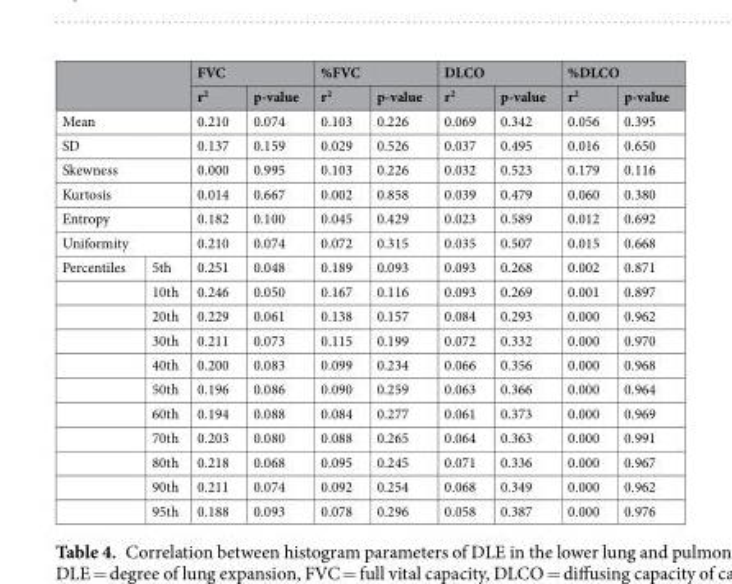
<table><thead><tr><td rowspan="2"></td><td rowspan="2"></td><td colspan="2">FVC</td><td colspan="2">%FVC</td><td colspan="2">DLCO</td><td colspan="2">%DLCO</td></tr><tr><td>r<sup>2</sup></td><td>p-value</td><td>r<sup>2</sup></td><td>p-value</td><td>r<sup>2</sup></td><td>p-value</td><td>r<sup>2</sup></td><td>p-value</td></tr></thead><tbody><tr><td colspan="2">Mean</td><td>0.210</td><td>0.074</td><td>0.103</td><td>0.226</td><td>0.069</td><td>0.342</td><td>0.056</td><td>0.395</td></tr><tr><td colspan="2">SD</td><td>0.137</td><td>0.159</td><td>0.029</td><td>0.526</td><td>0.037</td><td>0.495</td><td>0.016</td><td>0.650</td></tr><tr><td colspan="2">Skewness</td><td>0.000</td><td>0.995</td><td>0.103</td><td>0.226</td><td>0.032</td><td>0.523</td><td>0.179</td><td>0.116</td></tr><tr><td colspan="2">Kurtosis</td><td>0.014</td><td>0.667</td><td>0.002</td><td>0.858</td><td>0.039</td><td>0.479</td><td>0.060</td><td>0.380</td></tr><tr><td colspan="2">Entropy</td><td>0.182</td><td>0.100</td><td>0.045</td><td>0.429</td><td>0.023</td><td>0.589</td><td>0.012</td><td>0.692</td></tr><tr><td colspan="2">Uniformity</td><td>0.210</td><td>0.074</td><td>0.072</td><td>0.315</td><td>0.035</td><td>0.507</td><td>0.015</td><td>0.668</td></tr><tr><td rowspan="11">Percentiles</td><td>5th</td><td>0.251</td><td>0.048</td><td>0.189</td><td>0.093</td><td>0.093</td><td>0.268</td><td>0.002</td><td>0.871</td></tr><tr><td>10th</td><td>0.246</td><td>0.050</td><td>0.167</td><td>0.116</td><td>0.093</td><td>0.269</td><td>0.001</td><td>0.897</td></tr><tr><td>20th</td><td>0.229</td><td>0.061</td><td>0.138</td><td>0.157</td><td>0.084</td><td>0.293</td><td>0.000</td><td>0.962</td></tr><tr><td>30th</td><td>0.211</td><td>0.073</td><td>0.115</td><td>0.199</td><td>0.072</td><td>0.332</td><td>0.000</td><td>0.970</td></tr><tr><td>40th</td><td>0.200</td><td>0.083</td><td>0.099</td><td>0.234</td><td>0.066</td><td>0.356</td><td>0.000</td><td>0.968</td></tr><tr><td>50th</td><td>0.196</td><td>0.086</td><td>0.090</td><td>0.259</td><td>0.063</td><td>0.366</td><td>0.000</td><td>0.964</td></tr><tr><td>60th</td><td>0.194</td><td>0.088</td><td>0.084</td><td>0.277</td><td>0.061</td><td>0.373</td><td>0.000</td><td>0.969</td></tr><tr><td>70th</td><td>0.203</td><td>0.080</td><td>0.088</td><td>0.265</td><td>0.064</td><td>0.363</td><td>0.000</td><td>0.991</td></tr><tr><td>80th</td><td>0.218</td><td>0.068</td><td>0.095</td><td>0.245</td><td>0.071</td><td>0.336</td><td>0.000</td><td>0.967</td></tr><tr><td>90th</td><td>0.211</td><td>0.074</td><td>0.092</td><td>0.254</td><td>0.068</td><td>0.349</td><td>0.000</td><td>0.962</td></tr><tr><td>95th</td><td>0.188</td><td>0.093</td><td>0.078</td><td>0.296</td><td>0.058</td><td>0.387</td><td>0.000</td><td>0.976</td></tr></tbody></table>